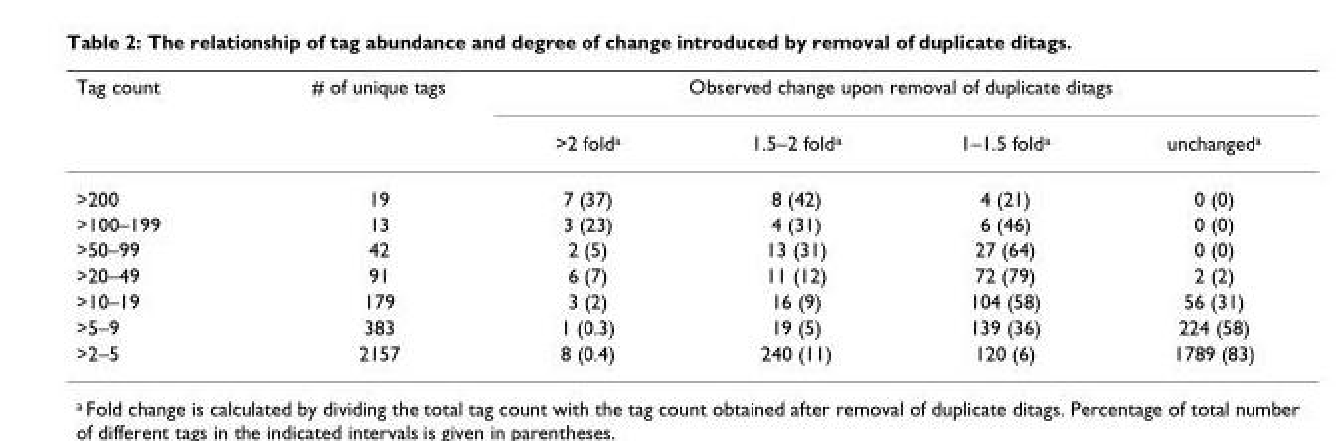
<table><thead><tr><td rowspan="2">Tag count</td><td rowspan="2"># of unique tags</td><td colspan="4">Observed change upon removal of duplicate ditags</td></tr><tr><td>&gt;2 fold<sup>a</sup></td><td>1.5–2 fold<sup>a</sup></td><td>1–1.5 fold<sup>a</sup></td><td>unchanged<sup>a</sup></td></tr></thead><tbody><tr><td>&gt;200</td><td>19</td><td>7 (37)</td><td>8 (42)</td><td>4 (21)</td><td>0 (0)</td></tr><tr><td>&gt;100–199</td><td>13</td><td>3 (23)</td><td>4 (31)</td><td>6 (46)</td><td>0 (0)</td></tr><tr><td>&gt;50–99</td><td>42</td><td>2 (5)</td><td>13 (31)</td><td>27 (64)</td><td>0 (0)</td></tr><tr><td>&gt;20–49</td><td>91</td><td>6 (7)</td><td>11 (12)</td><td>72 (79)</td><td>2 (2)</td></tr><tr><td>&gt;10–19</td><td>179</td><td>3 (2)</td><td>16 (9)</td><td>104 (58)</td><td>56 (31)</td></tr><tr><td>&gt;5–9</td><td>383</td><td>1 (0.3)</td><td>19 (5)</td><td>139 (36)</td><td>224 (58)</td></tr><tr><td>&gt;2–5</td><td>2157</td><td>8 (0.4)</td><td>240 (11)</td><td>120 (6)</td><td>1789 (83)</td></tr></tbody></table>